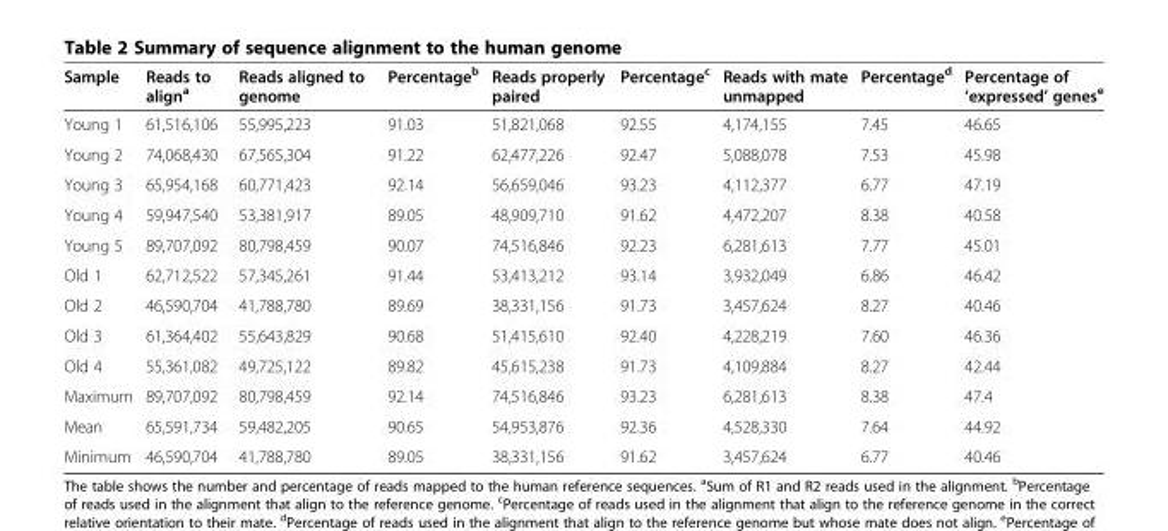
<table><thead><tr><td>Sample</td><td>Reads to align<sup>a</sup></td><td>Reads aligned to genome</td><td>Percentage<sup>b</sup></td><td>Reads properly paired</td><td>Percentage<sup>c</sup></td><td>Reads with mate unmapped</td><td>Percentage<sup>d</sup></td><td>Percentage of ‘expressed’ genes<sup>e</sup></td></tr></thead><tbody><tr><td>Young 1</td><td>61,516,106</td><td>55,995,223</td><td>91.03</td><td>51,821,068</td><td>92.55</td><td>4,174,155</td><td>7.45</td><td>46.65</td></tr><tr><td>Young 2</td><td>74,068,430</td><td>67,565,304</td><td>91.22</td><td>62,477,226</td><td>92.47</td><td>5,088,078</td><td>7.53</td><td>45.98</td></tr><tr><td>Young 3</td><td>65,954,168</td><td>60,771,423</td><td>92.14</td><td>56,659,046</td><td>93.23</td><td>4,112,377</td><td>6.77</td><td>47.19</td></tr><tr><td>Young 4</td><td>59,947,540</td><td>53,381,917</td><td>89.05</td><td>48,909,710</td><td>91.62</td><td>4,472,207</td><td>8.38</td><td>40.58</td></tr><tr><td>Young 5</td><td>89,707,092</td><td>80,798,459</td><td>90.07</td><td>74,516,846</td><td>92.23</td><td>6,281,613</td><td>7.77</td><td>45.01</td></tr><tr><td>Old 1</td><td>62,712,522</td><td>57,345,261</td><td>91.44</td><td>53,413,212</td><td>93.14</td><td>3,932,049</td><td>6.86</td><td>46.42</td></tr><tr><td>Old 2</td><td>46,590,704</td><td>41,788,780</td><td>89.69</td><td>38,331,156</td><td>91.73</td><td>3,457,624</td><td>8.27</td><td>40.46</td></tr><tr><td>Old 3</td><td>61,364,402</td><td>55,643,829</td><td>90.68</td><td>51,415,610</td><td>92.40</td><td>4,228,219</td><td>7.60</td><td>46.36</td></tr><tr><td>Old 4</td><td>55,361,082</td><td>49,725,122</td><td>89.82</td><td>45,615,238</td><td>91.73</td><td>4,109,884</td><td>8.27</td><td>42.44</td></tr><tr><td>Maximum</td><td>89,707,092</td><td>80,798,459</td><td>92.14</td><td>74,516,846</td><td>93.23</td><td>6,281,613</td><td>8.38</td><td>47.4</td></tr><tr><td>Mean</td><td>65,591,734</td><td>59,482,205</td><td>90.65</td><td>54,953,876</td><td>92.36</td><td>4,528,330</td><td>7.64</td><td>44.92</td></tr><tr><td>Minimum</td><td>46,590,704</td><td>41,788,780</td><td>89.05</td><td>38,331,156</td><td>91.62</td><td>3,457,624</td><td>6.77</td><td>40.46</td></tr></tbody></table>